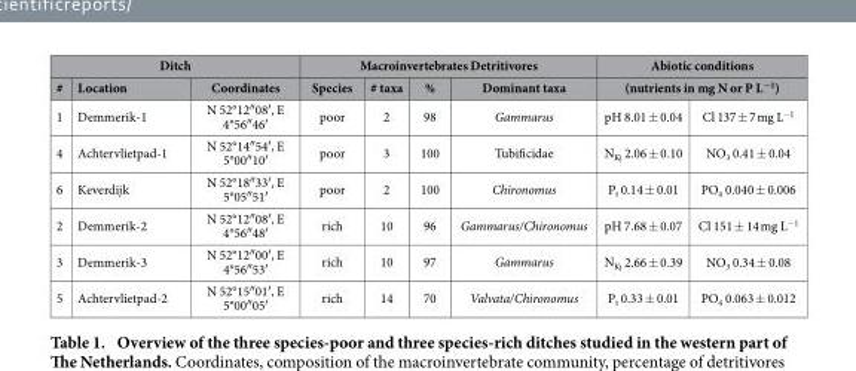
<table><thead><tr><td colspan="3">Ditch</td><td colspan="4">Macroinvertebrates Detritivores</td><td rowspan="2" colspan="2">Abiotic conditions (nutrients in mg N or P L<sup>−1</sup>)</td></tr><tr><td rowspan="2"># 1</td><td rowspan="2">Location Demmerik-1</td><td rowspan="2">Coordinates N 52°12″ 08′ , E 4°56″ 46′</td><td rowspan="2">Species poor</td><td rowspan="2"># taxa 2</td><td rowspan="2">% 98</td><td rowspan="2">Dominant taxa Gammarus</td></tr><tr><td>pH 8.01 ± 0.04</td><td>Cl 137 ± 7 mg L<sup>−1</sup></td></tr></thead><tbody><tr><td>4</td><td>Achtervlietpad-1</td><td>N 52°14″ 54′ , E 5°00″ 10′</td><td>poor</td><td>3</td><td>100</td><td>Tubificidae</td><td>N<sub>Kj</sub> 2.06 ± 0.10</td><td>NO<sub>3</sub> 0.41 ± 0.04</td></tr><tr><td>6</td><td>Keverdijk</td><td>N 52°18″ 33′ , E 5°05″ 51′</td><td>poor</td><td>2</td><td>100</td><td>Chironomus</td><td>P<sub>t</sub> 0.14 ± 0.01</td><td>PO<sub>4</sub> 0.040 ± 0.006</td></tr><tr><td>2</td><td>Demmerik-2</td><td>N 52°12″ 08′ , E 4°56″ 48′</td><td>rich</td><td>10</td><td>96</td><td>Gammarus/Chironomus</td><td>pH 7.68 ± 0.07</td><td>Cl 151 ± 14 mg L<sup>−1</sup></td></tr><tr><td>3</td><td>Demmerik-3</td><td>N 52°12″ 00′ , E 4°56″ 53′</td><td>rich</td><td>10</td><td>97</td><td>Gammarus</td><td>N<sub>Kj</sub> 2.66 ± 0.39</td><td>NO<sub>3</sub> 0.34 ± 0.08</td></tr><tr><td>5</td><td>Achtervlietpad-2</td><td>N 52°15″ 01′ , E 5°00″ 05′</td><td>rich</td><td>14</td><td>70</td><td>Valvata/Chironomus</td><td>P<sub>t</sub> 0.33 ± 0.01</td><td>PO<sub>4</sub> 0.063 ± 0.012</td></tr></tbody></table>